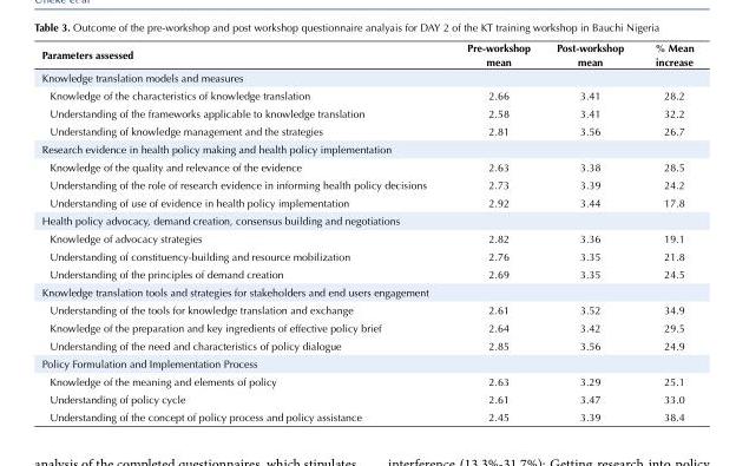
<table><tbody><tr><td>Parameters assessed</td><td>Pre-workshop mean</td><td>Post-workshop mean</td><td>% Mean increase</td></tr><tr><td colspan="4">Knowledge translation models and measures</td></tr><tr><td>Knowledge of the characteristics of knowledge translation</td><td>2.66</td><td>3.41</td><td>28.2</td></tr><tr><td>Understanding of the frameworks applicable to knowledge translation</td><td>2.58</td><td>3.41</td><td>32.2</td></tr><tr><td>Understanding of knowledge management and the strategies</td><td>2.81</td><td>3.56</td><td>26.7</td></tr><tr><td colspan="4">Research evidence in health policy making and health policy implementation</td></tr><tr><td>Knowledge of the quality and relevance of the evidence</td><td>2.63</td><td>3.38</td><td>28.5</td></tr><tr><td>Understanding of the role of research evidence in informing health policy decisions</td><td>2.73</td><td>3.39</td><td>24.2</td></tr><tr><td>Understanding of use of evidence in health policy implementation</td><td>2.92</td><td>3.44</td><td>17.8</td></tr><tr><td colspan="4">Health policy advocacy, demand creation, consensus building and negotiations</td></tr><tr><td>Knowledge of advocacy strategies</td><td>2.82</td><td>3.36</td><td>19.1</td></tr><tr><td>Understanding of constituency-building and resource mobilization</td><td>2.76</td><td>3.35</td><td>21.8</td></tr><tr><td>Understanding of the principles of demand creation</td><td>2.69</td><td>3.35</td><td>24.5</td></tr><tr><td colspan="4">Knowledge translation tools and strategies for stakeholders and end users engagement</td></tr><tr><td>Understanding of the tools for knowledge translation and exchange</td><td>2.61</td><td>3.52</td><td>34.9</td></tr><tr><td>Knowledge of the preparation and key ingredients of effective policy brief</td><td>2.64</td><td>3.42</td><td>29.5</td></tr><tr><td>Understanding of the need and characteristics of policy dialogue</td><td>2.85</td><td>3.56</td><td>24.9</td></tr><tr><td colspan="4">Policy Formulation and Implementation Process</td></tr><tr><td>Knowledge of the meaning and elements of policy</td><td>2.63</td><td>3.29</td><td>25.1</td></tr><tr><td>Understanding of policy cycle</td><td>2.61</td><td>3.47</td><td>33.0</td></tr><tr><td>Understanding of the concept of policy process and policy assistance</td><td>2.45</td><td>3.39</td><td>38.4</td></tr></tbody></table>